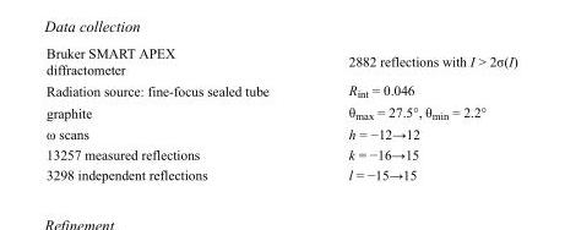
<table><tbody><tr><td>Bruker SMART APEX diffractometer</td><td>2882 reflections with I &gt; 2σ(I)</td></tr><tr><td>Radiation source: fine-focus sealed tube</td><td>R<sub>int</sub> = 0.046</td></tr><tr><td>graphite</td><td>θ<sub>max</sub> = 27.5°, θ<sub>min</sub> = 2.2°</td></tr><tr><td>ω scans</td><td>h = −12→12</td></tr><tr><td>13257 measured reflections</td><td>k = −16→15</td></tr><tr><td>3298 independent reflections</td><td>l = −15→15</td></tr></tbody></table>